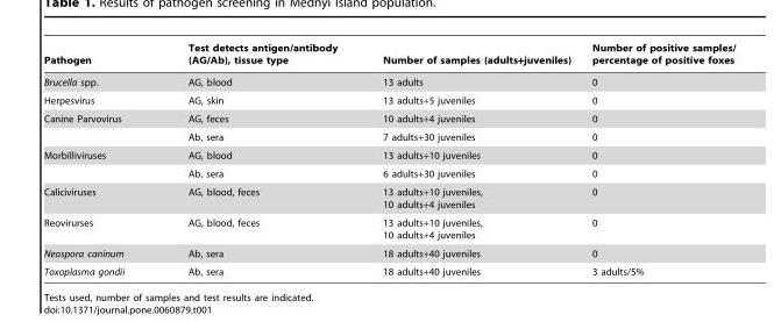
<table><thead><tr><td>Pathogen</td><td>Test detects antigen/antibody (AG/Ab), tissue type</td><td>Number of samples (adults+juveniles)</td><td>Number of positive samples/ percentage of positive foxes</td></tr></thead><tbody><tr><td>Brucella spp.</td><td>AG, blood</td><td>13 adults</td><td>0</td></tr><tr><td>Herpesvirus</td><td>AG, skin</td><td>13 adults+5 juveniles</td><td>0</td></tr><tr><td rowspan="2">Canine Parvovirus</td><td>AG, feces</td><td>10 adults+4 juveniles</td><td>0</td></tr><tr><td>Ab, sera</td><td>7 adults+30 juveniles</td><td>0</td></tr><tr><td rowspan="2">Morbilliviruses</td><td>AG, blood</td><td>13 adults+10 juveniles</td><td>0</td></tr><tr><td>Ab, sera</td><td>6 adults+30 juveniles</td><td>0</td></tr><tr><td>Caliciviruses</td><td>AG, blood, feces</td><td>13 adults+10 juveniles, 10 adults+4 juveniles</td><td>0</td></tr><tr><td>Reovirurses</td><td>AG, blood, feces</td><td>13 adults+10 juveniles, 10 adults+4 juveniles</td><td>0</td></tr><tr><td>Neospora caninum</td><td>Ab, sera</td><td>18 adults+40 juveniles</td><td>0</td></tr><tr><td>Toxoplasma gondii</td><td>Ab, sera</td><td>18 adults+40 juveniles</td><td>3 adults/5%</td></tr></tbody></table>